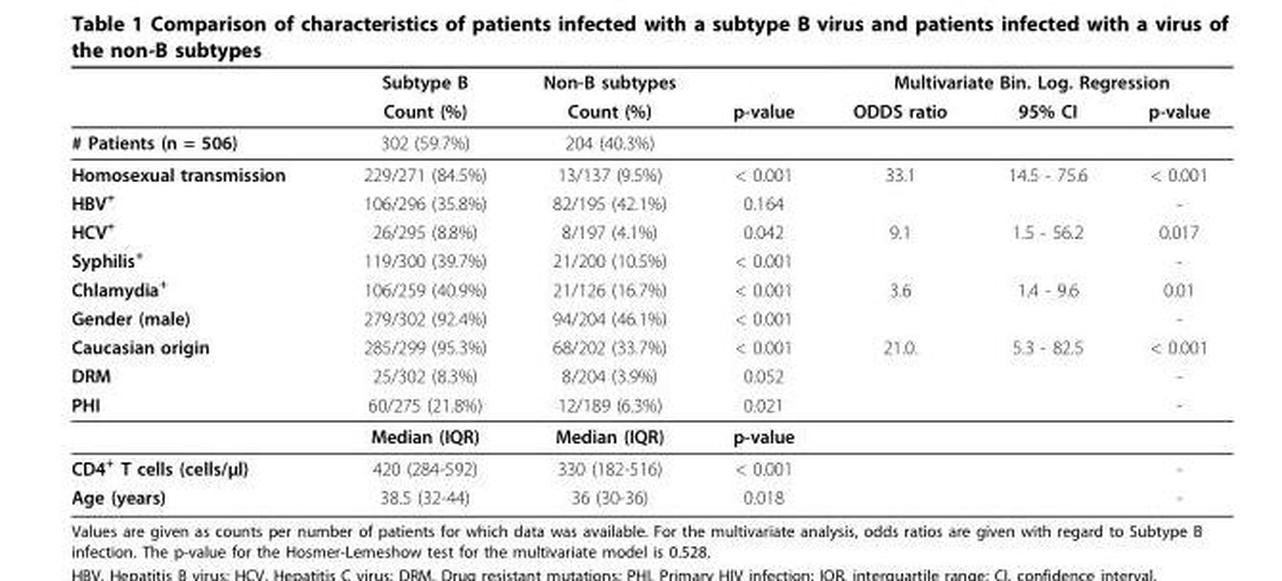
<table><thead><tr><td rowspan="2"></td><td rowspan="2">Subtype B Count (%)</td><td rowspan="2">Non-B subtypes Count (%)</td><td rowspan="2">p-value</td><td colspan="3">Multivariate Bin. Log. Regression</td></tr><tr><td>ODDS ratio</td><td>95% CI</td><td>p-value</td></tr></thead><tbody><tr><td># Patients (n = 506)</td><td>302 (59.7%)</td><td>204 (40.3%)</td><td></td><td></td><td></td><td></td></tr><tr><td>Homosexual transmission</td><td>229/271 (84.5%)</td><td>13/137 (9.5%)</td><td>&lt; 0.001</td><td>33.1</td><td>14.5 - 75.6</td><td>&lt; 0.001</td></tr><tr><td>HBV<sup>+</sup></td><td>106/296 (35.8%)</td><td>82/195 (42.1%)</td><td>0.164</td><td></td><td></td><td>-</td></tr><tr><td>HCV<sup>+</sup></td><td>26/295 (8.8%)</td><td>8/197 (4.1%)</td><td>0.042</td><td>9.1</td><td>1.5 - 56.2</td><td>0.017</td></tr><tr><td>Syphilis<sup>+</sup></td><td>119/300 (39.7%)</td><td>21/200 (10.5%)</td><td>&lt; 0.001</td><td></td><td></td><td>-</td></tr><tr><td>Chlamydia<sup>+</sup></td><td>106/259 (40.9%)</td><td>21/126 (16.7%)</td><td>&lt; 0.001</td><td>3.6</td><td>1.4 - 9.6</td><td>0.01</td></tr><tr><td>Gender (male)</td><td>279/302 (92.4%)</td><td>94/204 (46.1%)</td><td>&lt; 0.001</td><td></td><td></td><td>-</td></tr><tr><td>Caucasian origin</td><td>285/299 (95.3%)</td><td>68/202 (33.7%)</td><td>&lt; 0.001</td><td>21.0.</td><td>5.3 - 82.5</td><td>&lt; 0.001</td></tr><tr><td>DRM</td><td>25/302 (8.3%)</td><td>8/204 (3.9%)</td><td>0.052</td><td></td><td></td><td>-</td></tr><tr><td rowspan="2">PHI</td><td>60/275 (21.8%)</td><td>12/189 (6.3%)</td><td>0.021</td><td></td><td></td><td>-</td></tr><tr><td>Median (IQR)</td><td>Median (IQR)</td><td>p-value</td><td></td><td></td><td></td></tr><tr><td>CD4<sup>+</sup> T cells (cells/μl)</td><td>420 (284-592)</td><td>330 (182-516)</td><td>&lt; 0.001</td><td></td><td></td><td>-</td></tr><tr><td>Age (years)</td><td>38.5 (32-44)</td><td>36 (30-36)</td><td>0.018</td><td></td><td></td><td>-</td></tr></tbody></table>